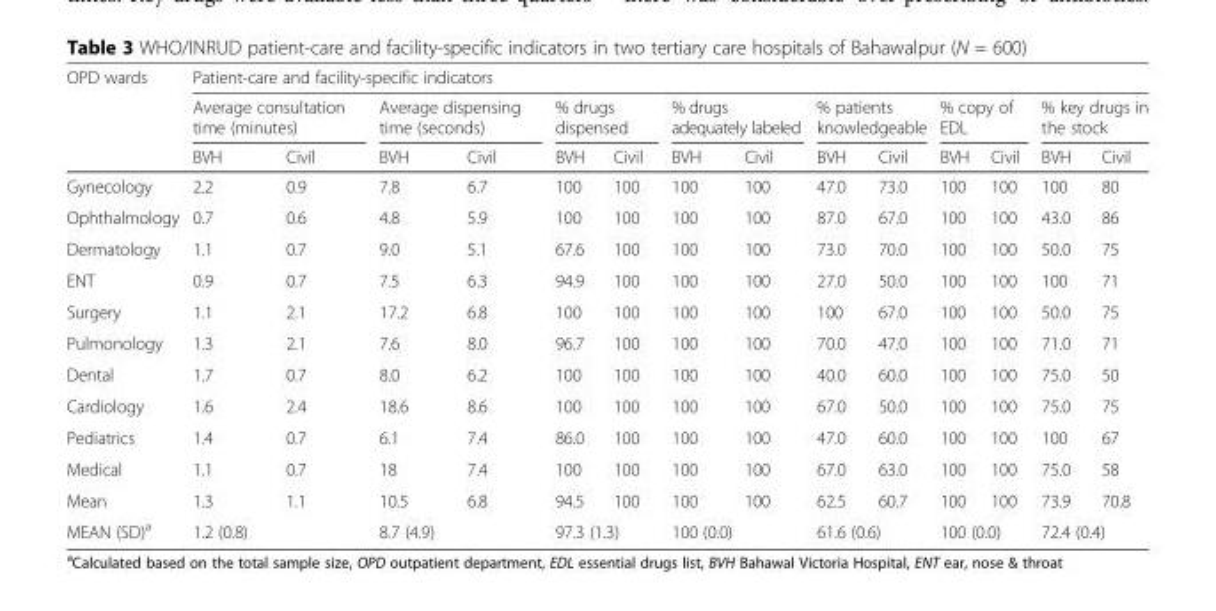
<table><thead><tr><td rowspan="3">OPD wards</td><td colspan="14">Patient-care and facility-specific indicators</td></tr><tr><td colspan="2">Average consultation time (minutes)</td><td colspan="2">Average dispensing time (seconds)</td><td colspan="2">% drugs dispensed</td><td colspan="2">% drugs adequately labeled</td><td colspan="2">% patients knowledgeable</td><td colspan="2">% copy of EDL</td><td colspan="2">% key drugs in the stock</td></tr><tr><td>BVH</td><td>Civil</td><td>BVH</td><td>Civil</td><td>BVH</td><td>Civil</td><td>BVH</td><td>Civil</td><td>BVH</td><td>Civil</td><td>BVH</td><td>Civil</td><td>BVH</td><td>Civil</td></tr></thead><tbody><tr><td>Gynecology</td><td>2.2</td><td>0.9</td><td>7.8</td><td>6.7</td><td>100</td><td>100</td><td>100</td><td>100</td><td>47.0</td><td>73.0</td><td>100</td><td>100</td><td>100</td><td>80</td></tr><tr><td>Ophthalmology</td><td>0.7</td><td>0.6</td><td>4.8</td><td>5.9</td><td>100</td><td>100</td><td>100</td><td>100</td><td>87.0</td><td>67.0</td><td>100</td><td>100</td><td>43.0</td><td>86</td></tr><tr><td>Dermatology</td><td>1.1</td><td>0.7</td><td>9.0</td><td>5.1</td><td>67.6</td><td>100</td><td>100</td><td>100</td><td>73.0</td><td>70.0</td><td>100</td><td>100</td><td>50.0</td><td>75</td></tr><tr><td>ENT</td><td>0.9</td><td>0.7</td><td>7.5</td><td>6.3</td><td>94.9</td><td>100</td><td>100</td><td>100</td><td>27.0</td><td>50.0</td><td>100</td><td>100</td><td>100</td><td>71</td></tr><tr><td>Surgery</td><td>1.1</td><td>2.1</td><td>17.2</td><td>6.8</td><td>100</td><td>100</td><td>100</td><td>100</td><td>100</td><td>67.0</td><td>100</td><td>100</td><td>50.0</td><td>75</td></tr><tr><td>Pulmonology</td><td>1.3</td><td>2.1</td><td>7.6</td><td>8.0</td><td>96.7</td><td>100</td><td>100</td><td>100</td><td>70.0</td><td>47.0</td><td>100</td><td>100</td><td>71.0</td><td>71</td></tr><tr><td>Dental</td><td>1.7</td><td>0.7</td><td>8.0</td><td>6.2</td><td>100</td><td>100</td><td>100</td><td>100</td><td>40.0</td><td>60.0</td><td>100</td><td>100</td><td>75.0</td><td>50</td></tr><tr><td>Cardiology</td><td>1.6</td><td>2.4</td><td>18.6</td><td>8.6</td><td>100</td><td>100</td><td>100</td><td>100</td><td>67.0</td><td>50.0</td><td>100</td><td>100</td><td>75.0</td><td>75</td></tr><tr><td>Pediatrics</td><td>1.4</td><td>0.7</td><td>6.1</td><td>7.4</td><td>86.0</td><td>100</td><td>100</td><td>100</td><td>47.0</td><td>60.0</td><td>100</td><td>100</td><td>100</td><td>67</td></tr><tr><td>Medical</td><td>1.1</td><td>0.7</td><td>18</td><td>7.4</td><td>100</td><td>100</td><td>100</td><td>100</td><td>67.0</td><td>63.0</td><td>100</td><td>100</td><td>75.0</td><td>58</td></tr><tr><td>Mean</td><td>1.3</td><td>1.1</td><td>10.5</td><td>6.8</td><td>94.5</td><td>100</td><td>100</td><td>100</td><td>62.5</td><td>60.7</td><td>100</td><td>100</td><td>73.9</td><td>70.8</td></tr><tr><td>MEAN (SD)<sup>a</sup></td><td colspan="2">1.2 (0.8)</td><td colspan="2">8.7 (4.9)</td><td colspan="2">97.3 (1.3)</td><td colspan="2">100 (0.0)</td><td colspan="2">61.6 (0.6)</td><td colspan="2">100 (0.0)</td><td colspan="2">72.4 (0.4)</td></tr></tbody></table>